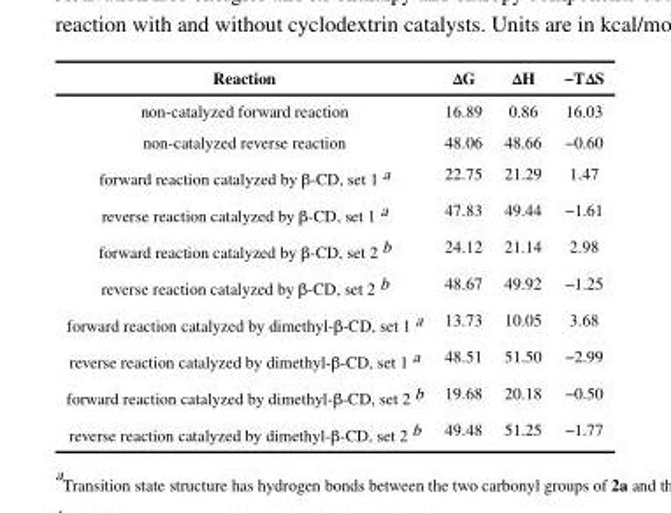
<table><thead><tr><td>Reaction</td><td>ΔG</td><td>ΔH</td><td>−TΔS</td></tr></thead><tbody><tr><td>non-catalyzed forward reaction</td><td>16.89</td><td>0.86</td><td>16.03</td></tr><tr><td>non-catalyzed reverse reaction</td><td>48.06</td><td>48.66</td><td>−0.60</td></tr><tr><td>forward reaction catalyzed by β-CD, set 1 a</td><td>22.75</td><td>21.29</td><td>1.47</td></tr><tr><td>reverse reaction catalyzed by β-CD, set 1 a</td><td>47.83</td><td>49.44</td><td>−1.61</td></tr><tr><td>forward reaction catalyzed by β-CD, set 2 b</td><td>24.12</td><td>21.14</td><td>2.98</td></tr><tr><td>reverse reaction catalyzed by β-CD, set 2 b</td><td>48.67</td><td>49.92</td><td>−1.25</td></tr><tr><td>forward reaction catalyzed by dimethyl-β-CD, set 1 a</td><td>13.73</td><td>10.05</td><td>3.68</td></tr><tr><td>reverse reaction catalyzed by dimethyl-β-CD, set 1 a</td><td>48.51</td><td>51.50</td><td>−2.99</td></tr><tr><td>forward reaction catalyzed by dimethyl-β-CD, set 2 b</td><td>19.68</td><td>20.18</td><td>−0.50</td></tr><tr><td>reverse reaction catalyzed by dimethyl-β-CD, set 2 b</td><td>49.48</td><td>51.25</td><td>−1.77</td></tr></tbody></table>